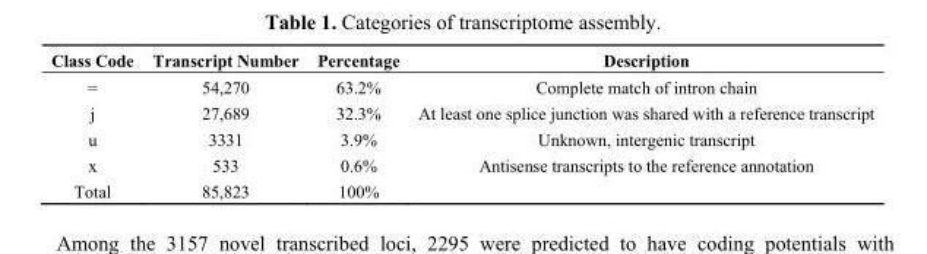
<table><thead><tr><td>Class Code</td><td>Transcript Number</td><td>Percentage</td><td>Description</td></tr></thead><tbody><tr><td>=</td><td>54,270</td><td>63.2%</td><td>Complete match of intron chain</td></tr><tr><td>j</td><td>27,689</td><td>32.3%</td><td>At least one splice junction was shared with a reference transcript</td></tr><tr><td>u</td><td>3331</td><td>3.9%</td><td>Unknown, intergenic transcript</td></tr><tr><td>x</td><td>533</td><td>0.6%</td><td>Antisense transcripts to the reference annotation</td></tr><tr><td>Total</td><td>85,823</td><td>100%</td><td></td></tr></tbody></table>